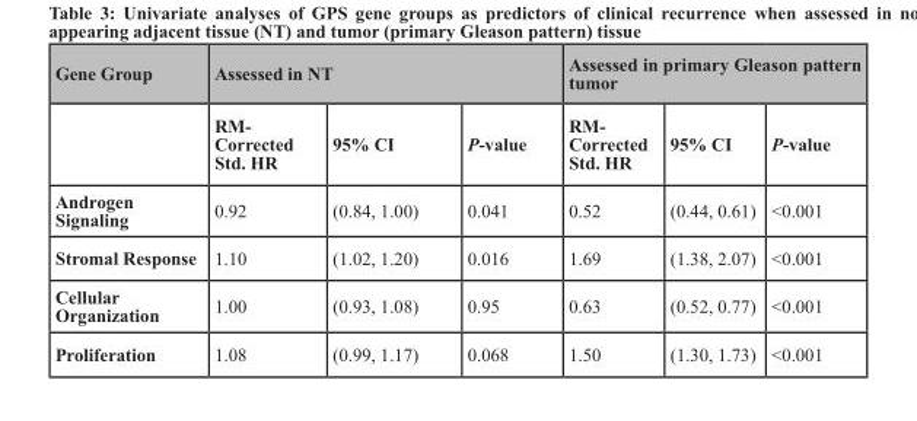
<table><thead><tr><td rowspan="2">Gene Group</td><td colspan="3">Assessed in Nt</td><td colspan="3">Assessed in primary Gleason pattern tumor</td></tr><tr><td>RM- corrected std. Hr</td><td>95% cI</td><td>P-value</td><td>RM- corrected std. Hr</td><td>95% cI</td><td>P-value</td></tr></thead><tbody><tr><td>Androgen signaling</td><td>0.92</td><td>(0.84, 1.00)</td><td>0.041</td><td>0.52</td><td>(0.44, 0.61)</td><td>&lt;0.001</td></tr><tr><td>Stromal Response</td><td>1.10</td><td>(1.02, 1.20)</td><td>0.016</td><td>1.69</td><td>(1.38, 2.07)</td><td>&lt;0.001</td></tr><tr><td>cellular Organization</td><td>1.00</td><td>(0.93, 1.08)</td><td>0.95</td><td>0.63</td><td>(0.52, 0.77)</td><td>&lt;0.001</td></tr><tr><td>Proliferation</td><td>1.08</td><td>(0.99, 1.17)</td><td>0.068</td><td>1.50</td><td>(1.30, 1.73)</td><td>&lt;0.001</td></tr></tbody></table>